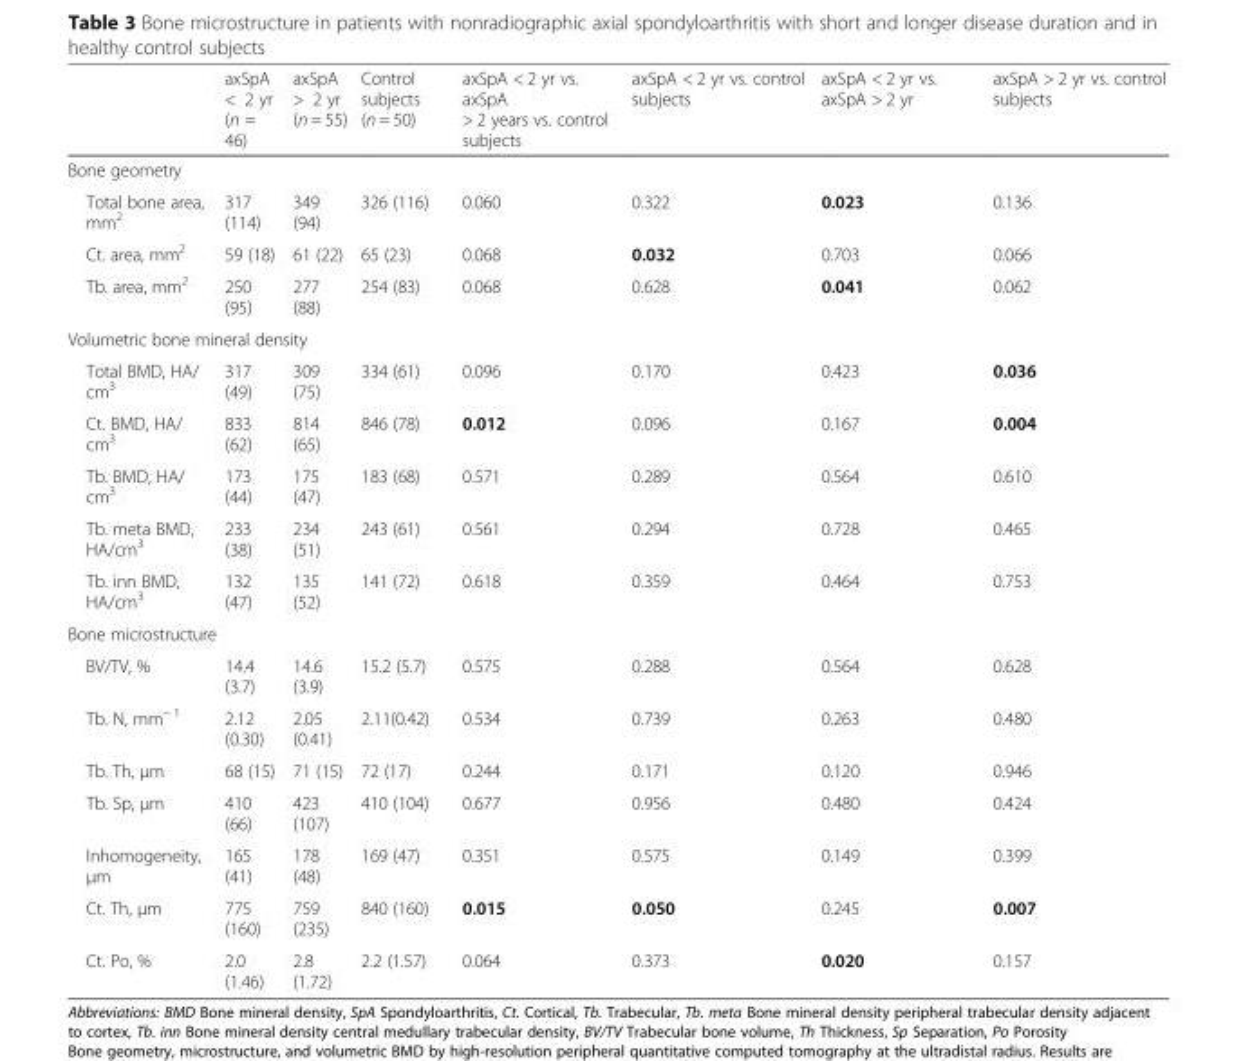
<table><thead><tr><td></td><td>axSpA &lt; 2 yr (n = 46)</td><td>axSpA &gt; 2 yr (n = 55)</td><td>Control subjects (n = 50)</td><td>axSpA &lt; 2 yr vs. axSpA &gt; 2 years vs. control subjects</td><td>axSpA &lt; 2 yr vs. control subjects</td><td>axSpA &lt; 2 yr vs. axSpA &gt; 2 yr</td><td>axSpA &gt; 2 yr vs. control subjects</td></tr></thead><tbody><tr><td colspan="8">Bone geometry</td></tr><tr><td>Total bone area, mm<sup>2</sup></td><td>317 (114)</td><td>349 (94)</td><td>326 (116)</td><td>0.060</td><td>0.322</td><td>0.023</td><td>0.136</td></tr><tr><td>Ct. area, mm<sup>2</sup></td><td>59 (18)</td><td>61 (22)</td><td>65 (23)</td><td>0.068</td><td>0.032</td><td>0.703</td><td>0.066</td></tr><tr><td>Tb. area, mm<sup>2</sup></td><td>250 (95)</td><td>277 (88)</td><td>254 (83)</td><td>0.068</td><td>0.628</td><td>0.041</td><td>0.062</td></tr><tr><td colspan="8">Volumetric bone mineral density</td></tr><tr><td>Total BMD, HA/ cm<sup>3</sup></td><td>317 (49)</td><td>309 (75)</td><td>334 (61)</td><td>0.096</td><td>0.170</td><td>0.423</td><td>0.036</td></tr><tr><td>Ct. BMD, HA/ cm<sup>3</sup></td><td>833 (62)</td><td>814 (65)</td><td>846 (78)</td><td>0.012</td><td>0.096</td><td>0.167</td><td>0.004</td></tr><tr><td>Tb. BMD, HA/ cm<sup>3</sup></td><td>173 (44)</td><td>175 (47)</td><td>183 (68)</td><td>0.571</td><td>0.289</td><td>0.564</td><td>0.610</td></tr><tr><td>Tb. meta BMD, HA/cm<sup>3</sup></td><td>233 (38)</td><td>234 (51)</td><td>243 (61)</td><td>0.561</td><td>0.294</td><td>0.728</td><td>0.465</td></tr><tr><td>Tb. inn BMD, HA/cm<sup>3</sup></td><td>132 (47)</td><td>135 (52)</td><td>141 (72)</td><td>0.618</td><td>0.359</td><td>0.464</td><td>0.753</td></tr><tr><td colspan="8">Bone microstructure</td></tr><tr><td>BV/TV, %</td><td>14.4 (3.7)</td><td>14.6 (3.9)</td><td>15.2 (5.7)</td><td>0.575</td><td>0.288</td><td>0.564</td><td>0.628</td></tr><tr><td>Tb. N, mm<sup>− 1</sup></td><td>2.12 (0.30)</td><td>2.05 (0.41)</td><td>2.11(0.42)</td><td>0.534</td><td>0.739</td><td>0.263</td><td>0.480</td></tr><tr><td>Tb. Th, μm</td><td>68 (15)</td><td>71 (15)</td><td>72 (17)</td><td>0.244</td><td>0.171</td><td>0.120</td><td>0.946</td></tr><tr><td>Tb. Sp, μm</td><td>410 (66)</td><td>423 (107)</td><td>410 (104)</td><td>0.677</td><td>0.956</td><td>0.480</td><td>0.424</td></tr><tr><td>Inhomogeneity, μm</td><td>165 (41)</td><td>178 (48)</td><td>169 (47)</td><td>0.351</td><td>0.575</td><td>0.149</td><td>0.399</td></tr><tr><td>Ct. Th, μm</td><td>775 (160)</td><td>759 (235)</td><td>840 (160)</td><td>0.015</td><td>0.050</td><td>0.245</td><td>0.007</td></tr><tr><td>Ct. Po, %</td><td>2.0 (1.46)</td><td>2.8 (1.72)</td><td>2.2 (1.57)</td><td>0.064</td><td>0.373</td><td>0.020</td><td>0.157</td></tr></tbody></table>